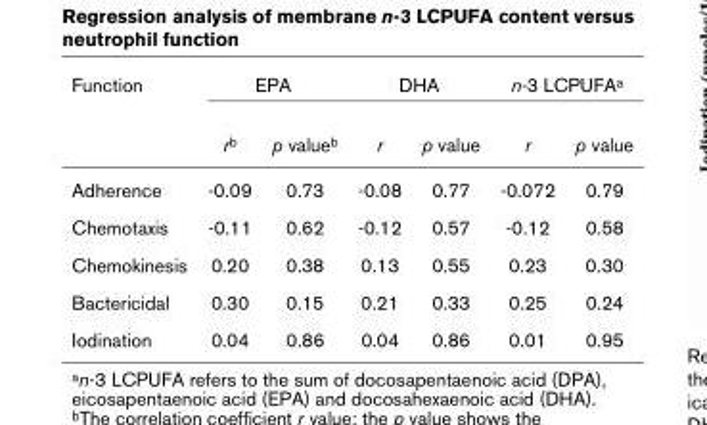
<table><thead><tr><td rowspan="2">Function</td><td colspan="2">EPA</td><td colspan="2">DHA</td><td colspan="2">n-3 LCPUFA<sup>a</sup></td></tr><tr><td>r<sup>b</sup></td><td>p value<sup>b</sup></td><td>r</td><td>p value</td><td>r</td><td>p value</td></tr></thead><tbody><tr><td>Adherence</td><td>-0.09</td><td>0.73</td><td>-0.08</td><td>0.77</td><td>-0.072</td><td>0.79</td></tr><tr><td>Chemotaxis</td><td>-0.11</td><td>0.62</td><td>-0.12</td><td>0.57</td><td>-0.12</td><td>0.58</td></tr><tr><td>Chemokinesis</td><td>0.20</td><td>0.38</td><td>0.13</td><td>0.55</td><td>0.23</td><td>0.30</td></tr><tr><td>Bactericidal</td><td>0.30</td><td>0.15</td><td>0.21</td><td>0.33</td><td>0.25</td><td>0.24</td></tr><tr><td>Iodination</td><td>0.04</td><td>0.86</td><td>0.04</td><td>0.86</td><td>0.01</td><td>0.95</td></tr></tbody></table>